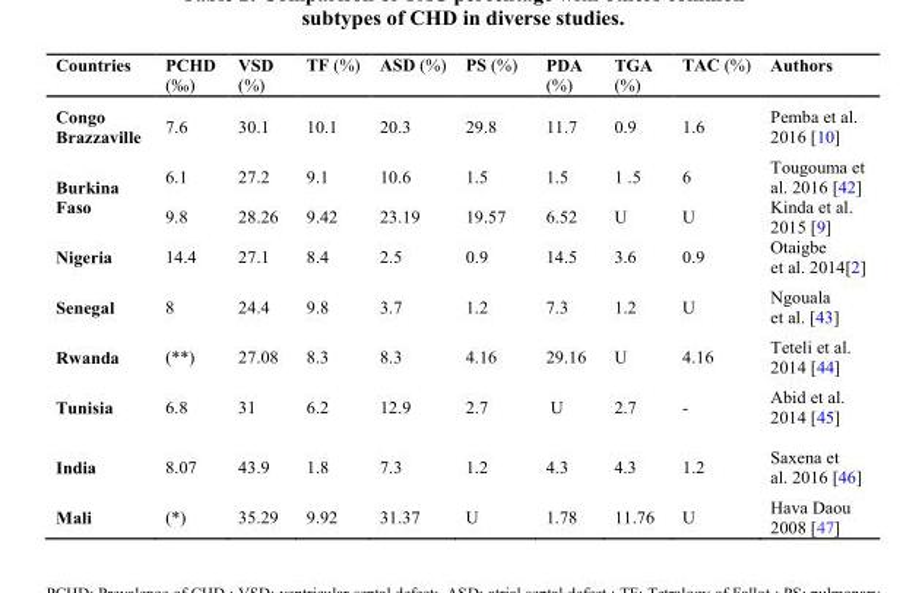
<table><thead><tr><td>Countries</td><td>PCHD (‰)</td><td>VSD (%)</td><td>TF (%)</td><td>ASD (%)</td><td>PS (%)</td><td>PDA (%)</td><td>TGA (%)</td><td>TAC (%)</td><td>Authors</td></tr></thead><tbody><tr><td>Congo Brazzaville</td><td>7.6</td><td>30.1</td><td>10.1</td><td>20.3</td><td>29.8</td><td>11.7</td><td>0.9</td><td>1.6</td><td>Pemba et al. 2016 [10]</td></tr><tr><td rowspan="2">Burkina Faso</td><td>6.1</td><td>27.2</td><td>9.1</td><td>10.6</td><td>1.5</td><td>1.5</td><td>1 .5</td><td>6</td><td>Tougouma et al. 2016 [42]</td></tr><tr><td>9.8</td><td>28.26</td><td>9.42</td><td>23.19</td><td>19.57</td><td>6.52</td><td>U</td><td>U</td><td>Kinda et al. 2015 [9]</td></tr><tr><td>Nigeria</td><td>14.4</td><td>27.1</td><td>8.4</td><td>2.5</td><td>0.9</td><td>14.5</td><td>3.6</td><td>0.9</td><td>Otaigbe et al. 2014[2]</td></tr><tr><td>Senegal</td><td>8</td><td>24.4</td><td>9.8</td><td>3.7</td><td>1.2</td><td>7.3</td><td>1.2</td><td>U</td><td>Ngouala et al. [43]</td></tr><tr><td>Rwanda</td><td>(**)</td><td>27.08</td><td>8.3</td><td>8.3</td><td>4.16</td><td>29.16</td><td>U</td><td>4.16</td><td>Teteli et al. 2014 [44]</td></tr><tr><td>Tunisia</td><td>6.8</td><td>31</td><td>6.2</td><td>12.9</td><td>2.7</td><td>U</td><td>2.7</td><td>-</td><td>Abid et al. 2014 [45]</td></tr><tr><td>India</td><td>8.07</td><td>43.9</td><td>1.8</td><td>7.3</td><td>1.2</td><td>4.3</td><td>4.3</td><td>1.2</td><td>Saxena et al. 2016 [46]</td></tr><tr><td>Mali</td><td>(*)</td><td>35.29</td><td>9.92</td><td>31.37</td><td>U</td><td>1.78</td><td>11.76</td><td>U</td><td>Hava Daou 2008 [47]</td></tr></tbody></table>